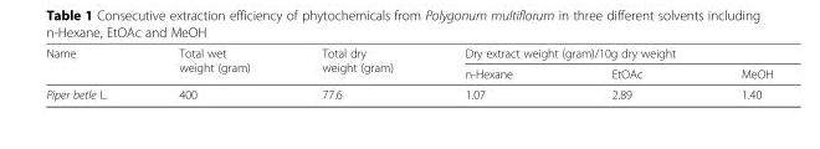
<table><thead><tr><td rowspan="2">Name</td><td rowspan="2">Total wet weight (gram)</td><td rowspan="2">Total dry weight (gram)</td><td colspan="3">Dry extract weight (gram)/10g dry weight</td></tr><tr><td>n-Hexane</td><td>EtOAc</td><td>MeOH</td></tr></thead><tbody><tr><td>Piper betle L.</td><td>400</td><td>77.6</td><td>1.07</td><td>2.89</td><td>1.40</td></tr></tbody></table>